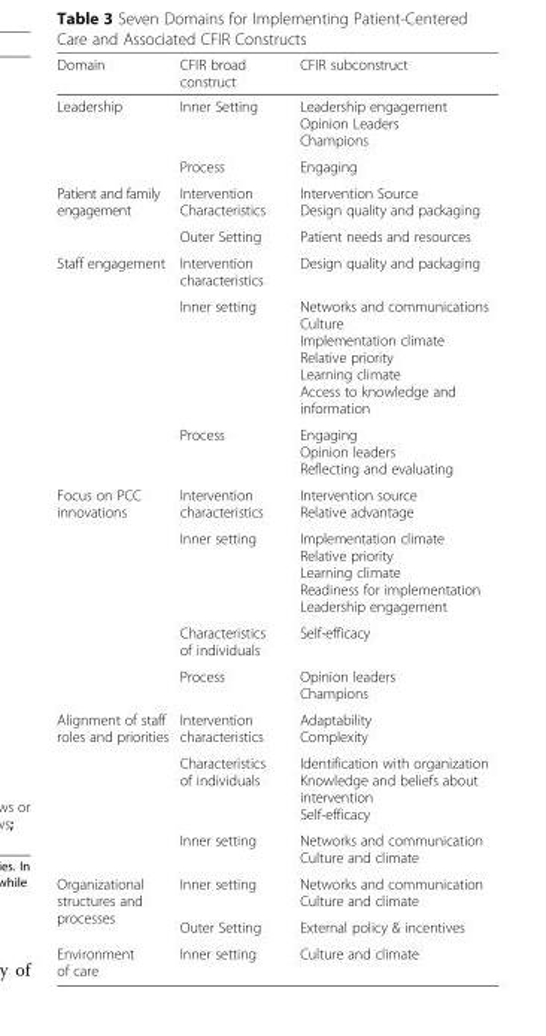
<table><thead><tr><td>Domain</td><td>CFIR broad construct</td><td>CFIR subconstruct</td></tr></thead><tbody><tr><td rowspan="2">Leadership</td><td>Inner Setting</td><td>Leadership engagement Opinion Leaders Champions</td></tr><tr><td>Process</td><td>Engaging</td></tr><tr><td rowspan="2">Patient and family engagement</td><td>Intervention Characteristics</td><td>Intervention Source Design quality and packaging</td></tr><tr><td>Outer Setting</td><td>Patient needs and resources</td></tr><tr><td rowspan="3">Staff engagement</td><td>Intervention characteristics</td><td>Design quality and packaging</td></tr><tr><td>Inner setting</td><td>Networks and communications Culture Implementation climate Relative priority Learning climate Access to knowledge and information</td></tr><tr><td>Process</td><td>Engaging Opinion leaders Reflecting and evaluating</td></tr><tr><td rowspan="4">Focus on PCC innovations</td><td>Intervention characteristics</td><td>Intervention source Relative advantage</td></tr><tr><td>Inner setting</td><td>Implementation climate Relative priority Learning climate Readiness for implementation Leadership engagement</td></tr><tr><td>Characteristics of individuals</td><td>Self-efficacy</td></tr><tr><td>Process</td><td>Opinion leaders Champions</td></tr><tr><td rowspan="3">Alignment of staff roles and priorities</td><td>Intervention characteristics</td><td>Adaptability Complexity</td></tr><tr><td>Characteristics of individuals</td><td>Identification with organization Knowledge and beliefs about intervention Self-efficacy</td></tr><tr><td>Inner setting</td><td>Networks and communication Culture and climate</td></tr><tr><td rowspan="2">Organizational structures and processes</td><td>Inner setting</td><td>Networks and communication Culture and climate</td></tr><tr><td>Outer Setting</td><td>External policy &amp; incentives</td></tr><tr><td>Environment of care</td><td>Inner setting</td><td>Culture and climate</td></tr></tbody></table>